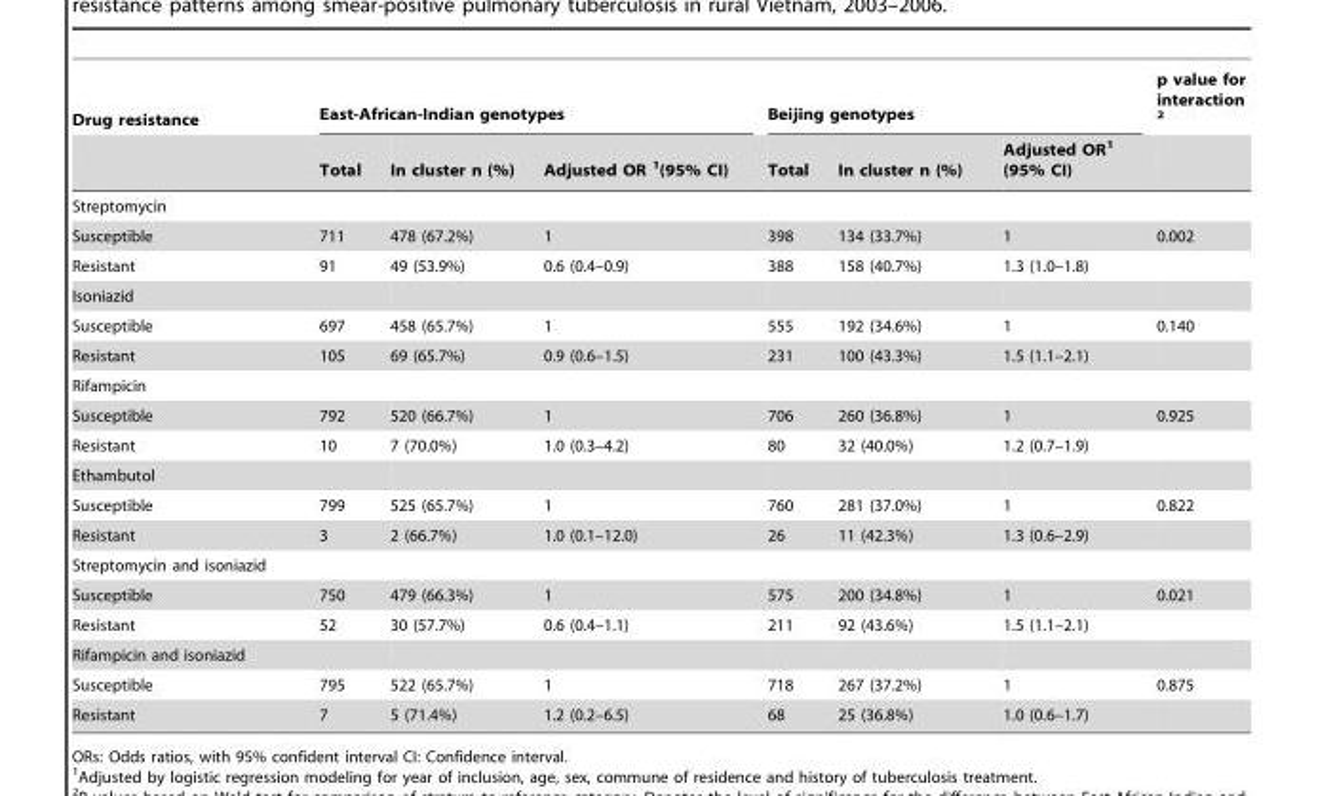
<table><thead><tr><td rowspan="2">Drug resistance</td><td colspan="3">East-African-Indian genotypes</td><td colspan="3">Beijing genotypes</td><td rowspan="2">p value for interaction 2</td></tr><tr><td>Total</td><td>In cluster n (%)</td><td>Adjusted OR 1(95% CI)</td><td>Total</td><td>In cluster n (%)</td><td>Adjusted OR<sup>1</sup> (95% CI)</td></tr></thead><tbody><tr><td colspan="8">Streptomycin</td></tr><tr><td>Susceptible</td><td>711</td><td>478 (67.2%)</td><td>1</td><td>398</td><td>134 (33.7%)</td><td>1</td><td>0.002</td></tr><tr><td>Resistant</td><td>91</td><td>49 (53.9%)</td><td>0.6 (0.4–0.9)</td><td>388</td><td>158 (40.7%)</td><td>1.3 (1.0–1.8)</td><td></td></tr><tr><td colspan="8">Isoniazid</td></tr><tr><td>Susceptible</td><td>697</td><td>458 (65.7%)</td><td>1</td><td>555</td><td>192 (34.6%)</td><td>1</td><td>0.140</td></tr><tr><td>Resistant</td><td>105</td><td>69 (65.7%)</td><td>0.9 (0.6–1.5)</td><td>231</td><td>100 (43.3%)</td><td>1.5 (1.1–2.1)</td><td></td></tr><tr><td colspan="8">Rifampicin</td></tr><tr><td>Susceptible</td><td>792</td><td>520 (66.7%)</td><td>1</td><td>706</td><td>260 (36.8%)</td><td>1</td><td>0.925</td></tr><tr><td>Resistant</td><td>10</td><td>7 (70.0%)</td><td>1.0 (0.3–4.2)</td><td>80</td><td>32 (40.0%)</td><td>1.2 (0.7–1.9)</td><td></td></tr><tr><td colspan="8">Ethambutol</td></tr><tr><td>Susceptible</td><td>799</td><td>525 (65.7%)</td><td>1</td><td>760</td><td>281 (37.0%)</td><td>1</td><td>0.822</td></tr><tr><td>Resistant</td><td>3</td><td>2 (66.7%)</td><td>1.0 (0.1–12.0)</td><td>26</td><td>11 (42.3%)</td><td>1.3 (0.6–2.9)</td><td></td></tr><tr><td colspan="8">Streptomycin and isoniazid</td></tr><tr><td>Susceptible</td><td>750</td><td>479 (66.3%)</td><td>1</td><td>575</td><td>200 (34.8%)</td><td>1</td><td>0.021</td></tr><tr><td>Resistant</td><td>52</td><td>30 (57.7%)</td><td>0.6 (0.4–1.1)</td><td>211</td><td>92 (43.6%)</td><td>1.5 (1.1–2.1)</td><td></td></tr><tr><td colspan="8">Rifampicin and isoniazid</td></tr><tr><td>Susceptible</td><td>795</td><td>522 (65.7%)</td><td>1</td><td>718</td><td>267 (37.2%)</td><td>1</td><td>0.875</td></tr><tr><td>Resistant</td><td>7</td><td>5 (71.4%)</td><td>1.2 (0.2–6.5)</td><td>68</td><td>25 (36.8%)</td><td>1.0 (0.6–1.7)</td><td></td></tr></tbody></table>